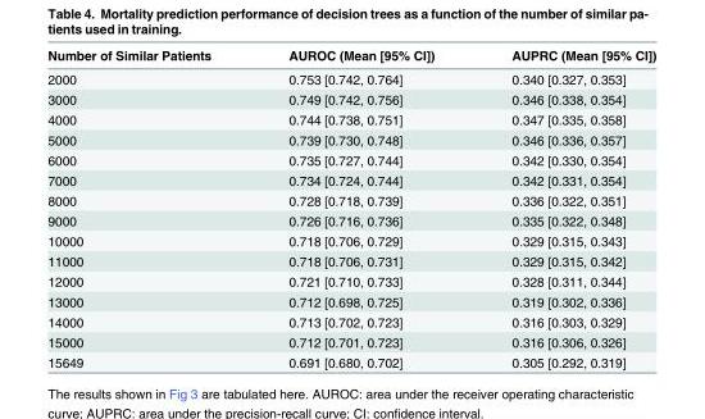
<table><thead><tr><td>Number of Similar Patients</td><td>AUROC (Mean [95% CI])</td><td>AUPRC (Mean [95% CI])</td></tr></thead><tbody><tr><td>2000</td><td>0.753 [0.742, 0.764]</td><td>0.340 [0.327, 0.353]</td></tr><tr><td>3000</td><td>0.749 [0.742, 0.756]</td><td>0.346 [0.338, 0.354]</td></tr><tr><td>4000</td><td>0.744 [0.738, 0.751]</td><td>0.347 [0.335, 0.358]</td></tr><tr><td>5000</td><td>0.739 [0.730, 0.748]</td><td>0.346 [0.336, 0.357]</td></tr><tr><td>6000</td><td>0.735 [0.727, 0.744]</td><td>0.342 [0.330, 0.354]</td></tr><tr><td>7000</td><td>0.734 [0.724, 0.744]</td><td>0.342 [0.331, 0.354]</td></tr><tr><td>8000</td><td>0.728 [0.718, 0.739]</td><td>0.336 [0.322, 0.351]</td></tr><tr><td>9000</td><td>0.726 [0.716, 0.736]</td><td>0.335 [0.322, 0.348]</td></tr><tr><td>10000</td><td>0.718 [0.706, 0.729]</td><td>0.329 [0.315, 0.343]</td></tr><tr><td>11000</td><td>0.718 [0.706, 0.731]</td><td>0.329 [0.315, 0.342]</td></tr><tr><td>12000</td><td>0.721 [0.710, 0.733]</td><td>0.328 [0.311, 0.344]</td></tr><tr><td>13000</td><td>0.712 [0.698, 0.725]</td><td>0.319 [0.302, 0.336]</td></tr><tr><td>14000</td><td>0.713 [0.702, 0.723]</td><td>0.316 [0.303, 0.329]</td></tr><tr><td>15000</td><td>0.712 [0.701, 0.723]</td><td>0.316 [0.306, 0.326]</td></tr><tr><td>15649</td><td>0.691 [0.680, 0.702]</td><td>0.305 [0.292, 0.319]</td></tr></tbody></table>